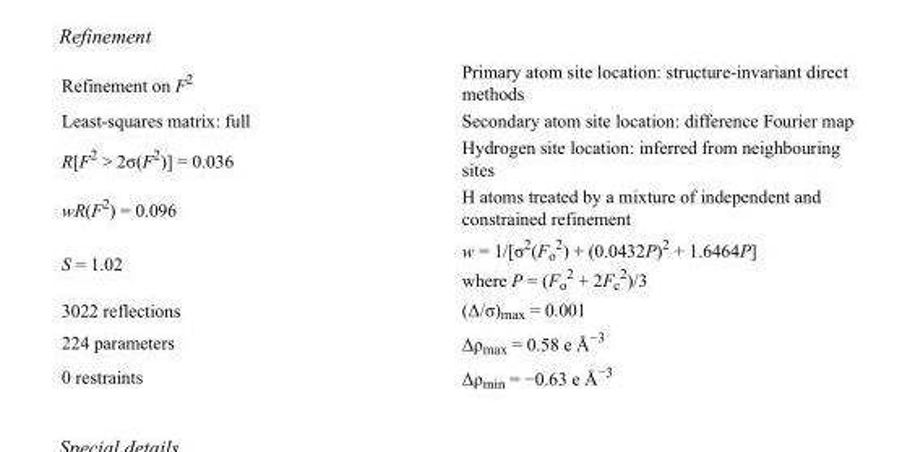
<table><tbody><tr><td>Refinement on F<sup>2</sup></td><td>Primary atom site location: structure-invariant direct methods</td></tr><tr><td>Least-squares matrix: full</td><td>Secondary atom site location: difference Fourier map</td></tr><tr><td>R[F<sup>2</sup> &gt; 2σ(F<sup>2</sup>)] = 0.036</td><td>Hydrogen site location: inferred from neighbouring sites</td></tr><tr><td>wR(F<sup>2</sup>) = 0.096</td><td>H atoms treated by a mixture of independent and constrained refinement</td></tr><tr><td>S = 1.02</td><td>w = 1/[σ<sup>2</sup>(F<sub>o</sub> <sup>2</sup>) + (0.0432P)<sup>2</sup> + 1.6464P] where P = (F<sub>o</sub> <sup>2</sup> + 2F<sub>c</sub> <sup>2</sup>)/3</td></tr><tr><td>3022 reflections</td><td>(Δ/σ)<sub>max</sub> = 0.001</td></tr><tr><td>224 parameters</td><td>Δρ<sub>max</sub> = 0.58 e Å<sup>−3</sup></td></tr><tr><td>0 restraints</td><td>Δρ<sub>min</sub> = −0.63 e Å<sup>−3</sup></td></tr></tbody></table>